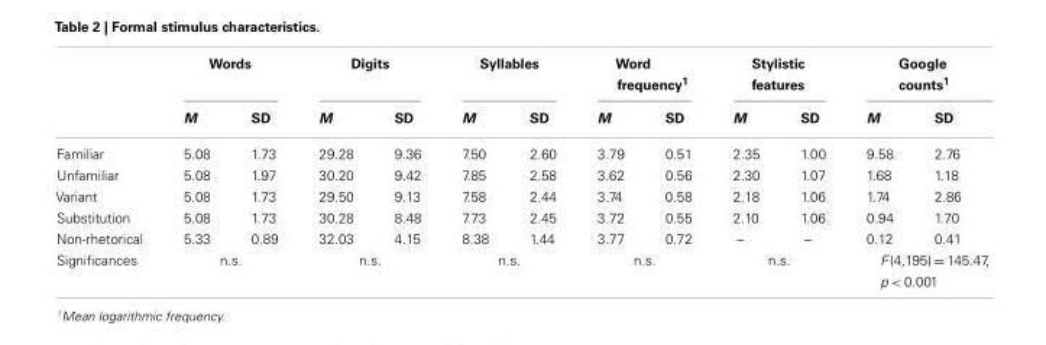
<table><thead><tr><td rowspan="2"></td><td colspan="2">Words</td><td colspan="2">Digits</td><td colspan="2">Syllables</td><td colspan="2">Word frequency<sup>1</sup></td><td colspan="2">Stylistic features</td><td colspan="2">Google counts<sup>1</sup></td></tr><tr><td>M</td><td>SD</td><td>M</td><td>SD</td><td>M</td><td>SD</td><td>M</td><td>SD</td><td>M</td><td>SD</td><td>M</td><td>SD</td></tr></thead><tbody><tr><td>Familiar</td><td>5.08</td><td>1.73</td><td>29.28</td><td>9.36</td><td>7.50</td><td>2.60</td><td>3.79</td><td>0.51</td><td>2.35</td><td>1.00</td><td>9.58</td><td>2.76</td></tr><tr><td>Unfamiliar</td><td>5.08</td><td>1.97</td><td>30.20</td><td>9.42</td><td>7.85</td><td>2.58</td><td>3.62</td><td>0.56</td><td>2.30</td><td>1.07</td><td>1.68</td><td>1.18</td></tr><tr><td>Variant</td><td>5.08</td><td>1.73</td><td>29.50</td><td>9.13</td><td>7.58</td><td>2.44</td><td>3.74</td><td>0.58</td><td>2.18</td><td>1.06</td><td>1.74</td><td>2.86</td></tr><tr><td>Substitution</td><td>5.08</td><td>1.73</td><td>30.28</td><td>8.48</td><td>7.73</td><td>2.45</td><td>3.72</td><td>0.55</td><td>2.10</td><td>1.06</td><td>0.94</td><td>1.70</td></tr><tr><td>Non-rhetorical</td><td>5.33</td><td>0.89</td><td>32.03</td><td>4.15</td><td>8.38</td><td>1.44</td><td>3.77</td><td>0.72</td><td>–</td><td>–</td><td>0.12</td><td>0.41</td></tr><tr><td>Significances</td><td colspan="2">n.s.</td><td colspan="2">n.s.</td><td colspan="2">n.s.</td><td colspan="2">n.s.</td><td colspan="2">n.s.</td><td colspan="2">F(4,195) = 145.47, p &lt; 0.001</td></tr></tbody></table>